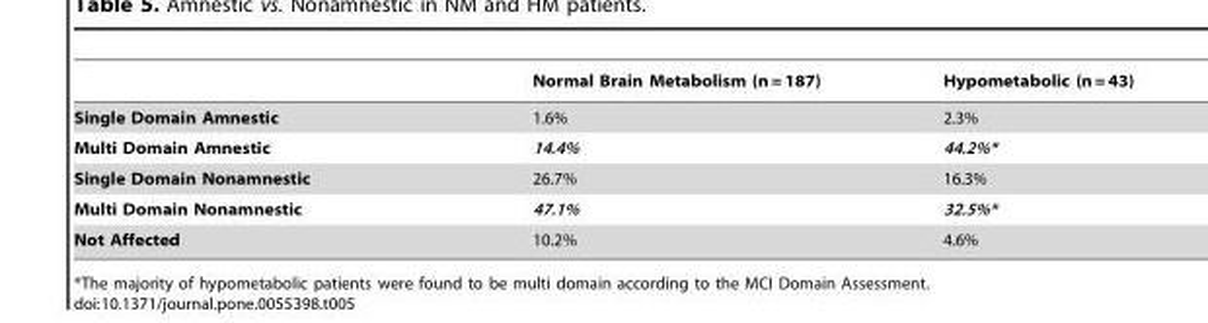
<table><thead><tr><td></td><td>Normal Brain Metabolism (n = 187)</td><td>Hypometabolic (n = 43)</td></tr></thead><tbody><tr><td>Single Domain Amnestic</td><td>1.6%</td><td>2.3%</td></tr><tr><td>Multi Domain Amnestic</td><td>14.4%</td><td>44.2%*</td></tr><tr><td>Single Domain Nonamnestic</td><td>26.7%</td><td>16.3%</td></tr><tr><td>Multi Domain Nonamnestic</td><td>47.1%</td><td>32.5%*</td></tr><tr><td>Not Affected</td><td>10.2%</td><td>4.6%</td></tr></tbody></table>